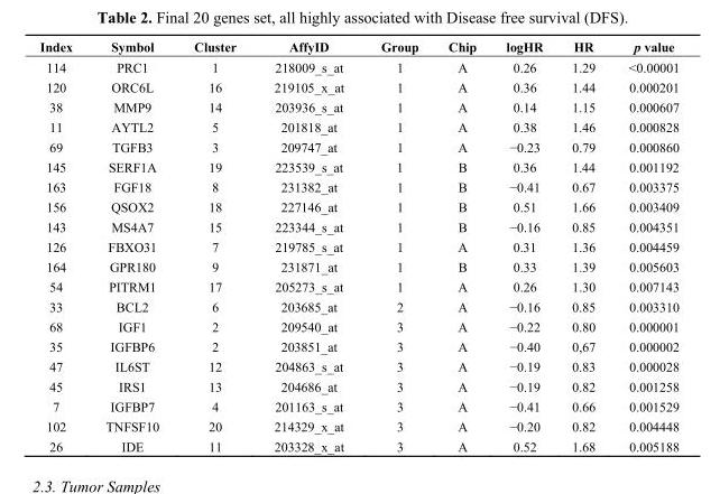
<table><thead><tr><td>Index</td><td>Symbol</td><td>Cluster</td><td>AffyID</td><td>Group</td><td>Chip</td><td>logHR</td><td>HR</td><td>p value</td></tr></thead><tbody><tr><td>114</td><td>PRC1</td><td>1</td><td>218009_s_at</td><td>1</td><td>A</td><td>0.26</td><td>1.29</td><td>&lt;0.00001</td></tr><tr><td>120</td><td>ORC6L</td><td>16</td><td>219105_x_at</td><td>1</td><td>A</td><td>0.36</td><td>1.44</td><td>0.000201</td></tr><tr><td>38</td><td>MMP9</td><td>14</td><td>203936_s_at</td><td>1</td><td>A</td><td>0.14</td><td>1.15</td><td>0.000607</td></tr><tr><td>11</td><td>AYTL2</td><td>5</td><td>201818_at</td><td>1</td><td>A</td><td>0.38</td><td>1.46</td><td>0.000828</td></tr><tr><td>69</td><td>TGFB3</td><td>3</td><td>209747_at</td><td>1</td><td>A</td><td>−0.23</td><td>0.79</td><td>0.000860</td></tr><tr><td>145</td><td>SERF1A</td><td>19</td><td>223539_s_at</td><td>1</td><td>B</td><td>0.36</td><td>1.44</td><td>0.001192</td></tr><tr><td>163</td><td>FGF18</td><td>8</td><td>231382_at</td><td>1</td><td>B</td><td>−0.41</td><td>0.67</td><td>0.003375</td></tr><tr><td>156</td><td>QSOX2</td><td>18</td><td>227146_at</td><td>1</td><td>B</td><td>0.51</td><td>1.66</td><td>0.003409</td></tr><tr><td>143</td><td>MS4A7</td><td>15</td><td>223344_s_at</td><td>1</td><td>B</td><td>−0.16</td><td>0.85</td><td>0.004351</td></tr><tr><td>126</td><td>FBXO31</td><td>7</td><td>219785_s_at</td><td>1</td><td>A</td><td>0.31</td><td>1.36</td><td>0.004459</td></tr><tr><td>164</td><td>GPR180</td><td>9</td><td>231871_at</td><td>1</td><td>B</td><td>0.33</td><td>1.39</td><td>0.005603</td></tr><tr><td>54</td><td>PITRM1</td><td>17</td><td>205273_s_at</td><td>1</td><td>A</td><td>0.26</td><td>1.30</td><td>0.007143</td></tr><tr><td>33</td><td>BCL2</td><td>6</td><td>203685_at</td><td>2</td><td>A</td><td>−0.16</td><td>0.85</td><td>0.003310</td></tr><tr><td>68</td><td>IGF1</td><td>2</td><td>209540_at</td><td>3</td><td>A</td><td>−0.22</td><td>0.80</td><td>0.000001</td></tr><tr><td>35</td><td>IGFBP6</td><td>2</td><td>203851_at</td><td>3</td><td>A</td><td>−0.40</td><td>0,67</td><td>0.000002</td></tr><tr><td>47</td><td>IL6ST</td><td>12</td><td>204863_s_at</td><td>3</td><td>A</td><td>−0.19</td><td>0.83</td><td>0.000028</td></tr><tr><td>45</td><td>IRS1</td><td>13</td><td>204686_at</td><td>3</td><td>A</td><td>−0.19</td><td>0.82</td><td>0.001258</td></tr><tr><td>7</td><td>IGFBP7</td><td>4</td><td>201163_s_at</td><td>3</td><td>A</td><td>−0.41</td><td>0.66</td><td>0.001529</td></tr><tr><td>102</td><td>TNFSF10</td><td>20</td><td>214329_x_at</td><td>3</td><td>A</td><td>−0.20</td><td>0.82</td><td>0.004448</td></tr><tr><td>26</td><td>IDE</td><td>11</td><td>203328_x_at</td><td>3</td><td>A</td><td>0.52</td><td>1.68</td><td>0.005188</td></tr></tbody></table>